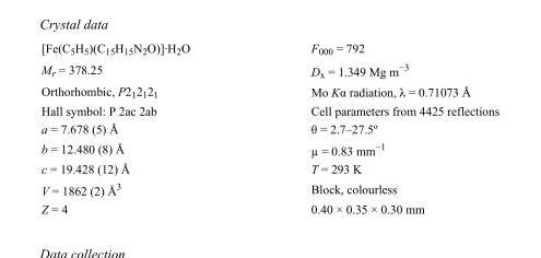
<table><tbody><tr><td>[Fe(C<sub>5</sub>H<sub>5</sub>)(C<sub>15</sub>H<sub>15</sub>N<sub>2</sub>O)]·H<sub>2</sub>O</td><td>F000 = 792</td></tr><tr><td>M<sub>r</sub> = 378.25</td><td>D<sub>x</sub> = 1.349 Mg m<sup>−3</sup></td></tr><tr><td>Orthorhombic, P2<sub>1</sub>2<sub>1</sub>2<sub>1</sub></td><td>Mo Kα radiation, λ = 0.71073 Å</td></tr><tr><td>Hall symbol: P 2ac 2ab</td><td>Cell parameters from 4425 reflections</td></tr><tr><td>a = 7.678 (5) Å</td><td>θ = 2.7–27.5º</td></tr><tr><td>b = 12.480 (8) Å</td><td>µ = 0.83 mm<sup>−1</sup></td></tr><tr><td>c = 19.428 (12) Å</td><td>T = 293 K</td></tr><tr><td>V = 1862 (2) Å<sup>3</sup></td><td>Block, colourless</td></tr><tr><td>Z = 4</td><td>0.40 × 0.35 × 0.30 mm</td></tr></tbody></table>